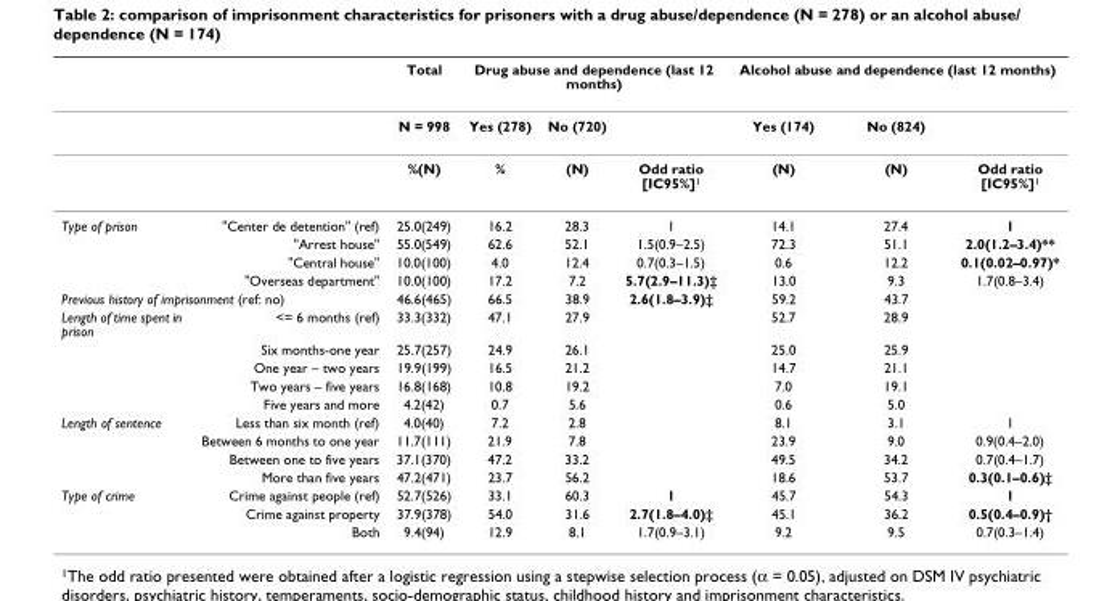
<table><thead><tr><td rowspan="2"></td><td rowspan="2"></td><td rowspan="2">Total N = 998</td><td colspan="3">Drug abuse and dependence (last 12 months)</td><td colspan="3">Alcohol abuse and dependence (last 12 months)</td></tr><tr><td>Yes (278)</td><td>No (720)</td><td></td><td>Yes (174)</td><td>No (824)</td><td></td></tr></thead><tbody><tr><td></td><td></td><td>%(N)</td><td>%</td><td>(N)</td><td>Odd ratio [IC95%]<sup>1</sup></td><td>(N)</td><td>(N)</td><td>Odd ratio [IC95%]<sup>1</sup></td></tr><tr><td rowspan="4">Type of prison</td><td>&quot;Center de detention&quot; (ref)</td><td>25.0(249)</td><td>16.2</td><td>28.3</td><td>1</td><td>14.1</td><td>27.4</td><td>1</td></tr><tr><td>&quot;Arrest house&quot;</td><td>55.0(549)</td><td>62.6</td><td>52.1</td><td>1.5(0.9–2.5)</td><td>72.3</td><td>51.1</td><td>2.0(1.2–3.4)**</td></tr><tr><td>&quot;Central house&quot;</td><td>10.0(100)</td><td>4.0</td><td>12.4</td><td>0.7(0.3–1.5)</td><td>0.6</td><td>12.2</td><td>0.1(0.02–0.97)*</td></tr><tr><td>&quot;Overseas department&quot;</td><td>10.0(100)</td><td>17.2</td><td>7.2</td><td>5.7(2.9–11.3)‡</td><td>13.0</td><td>9.3</td><td>1.7(0.8–3.4)</td></tr><tr><td colspan="2">Previous history of imprisonment (ref: no)</td><td>46.6(465)</td><td>66.5</td><td>38.9</td><td>2.6(1.8–3.9)‡</td><td>59.2</td><td>43.7</td><td></td></tr><tr><td rowspan="5">Length of time spent in prison</td><td>&lt;= 6 months (ref)</td><td>33.3(332)</td><td>47.1</td><td>27.9</td><td></td><td>52.7</td><td>28.9</td><td></td></tr><tr><td>Six months-one year</td><td>25.7(257)</td><td>24.9</td><td>26.1</td><td></td><td>25.0</td><td>25.9</td><td></td></tr><tr><td>One year – two years</td><td>19.9(199)</td><td>16.5</td><td>21.2</td><td></td><td>14.7</td><td>21.1</td><td></td></tr><tr><td>Two years – five years</td><td>16.8(168)</td><td>10.8</td><td>19.2</td><td></td><td>7.0</td><td>19.1</td><td></td></tr><tr><td>Five years and more</td><td>4.2(42)</td><td>0.7</td><td>5.6</td><td></td><td>0.6</td><td>5.0</td><td></td></tr><tr><td rowspan="4">Length of sentence</td><td>Less than six month (ref)</td><td>4.0(40)</td><td>7.2</td><td>2.8</td><td></td><td>8.1</td><td>3.1</td><td>1</td></tr><tr><td>Between 6 months to one year</td><td>11.7(111)</td><td>21.9</td><td>7.8</td><td></td><td>23.9</td><td>9.0</td><td>0.9(0.4–2.0)</td></tr><tr><td>Between one to five years</td><td>37.1(370)</td><td>47.2</td><td>33.2</td><td></td><td>49.5</td><td>34.2</td><td>0.7(0.4–1.7)</td></tr><tr><td>More than five years</td><td>47.2(471)</td><td>23.7</td><td>56.2</td><td></td><td>18.6</td><td>53.7</td><td>0.3(0.1–0.6)‡</td></tr><tr><td rowspan="3">Type of crime</td><td>Crime against people (ref)</td><td>52.7(526)</td><td>33.1</td><td>60.3</td><td>1</td><td>45.7</td><td>54.3</td><td>1</td></tr><tr><td>Crime against property</td><td>37.9(378)</td><td>54.0</td><td>31.6</td><td>2.7(1.8–4.0)‡</td><td>45.1</td><td>36.2</td><td>0.5(0.4–0.9)†</td></tr><tr><td>Both</td><td>9.4(94)</td><td>12.9</td><td>8.1</td><td>1.7(0.9–3.1)</td><td>9.2</td><td>9.5</td><td>0.7(0.3–1.4)</td></tr></tbody></table>